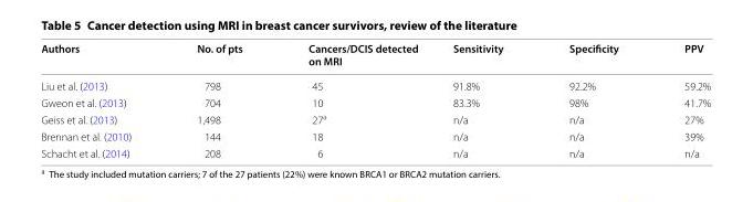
<table><thead><tr><td>Authors</td><td>No. of pts</td><td>Cancers/DCIS detected on MRI</td><td>Sensitivity</td><td>Specificity</td><td>PPV</td></tr></thead><tbody><tr><td>Liu et al. (2013)</td><td>798</td><td>45</td><td>91.8%</td><td>92.2%</td><td>59.2%</td></tr><tr><td>Gweon et al. (2013)</td><td>704</td><td>10</td><td>83.3%</td><td>98%</td><td>41.7%</td></tr><tr><td>Geiss et al. (2013)</td><td>1,498</td><td>27<sup>a</sup></td><td>n/a</td><td>n/a</td><td>27%</td></tr><tr><td>Brennan et al. (2010)</td><td>144</td><td>18</td><td>n/a</td><td>n/a</td><td>39%</td></tr><tr><td>Schacht et al. (2014)</td><td>208</td><td>6</td><td>n/a</td><td>n/a</td><td>n/a</td></tr></tbody></table>